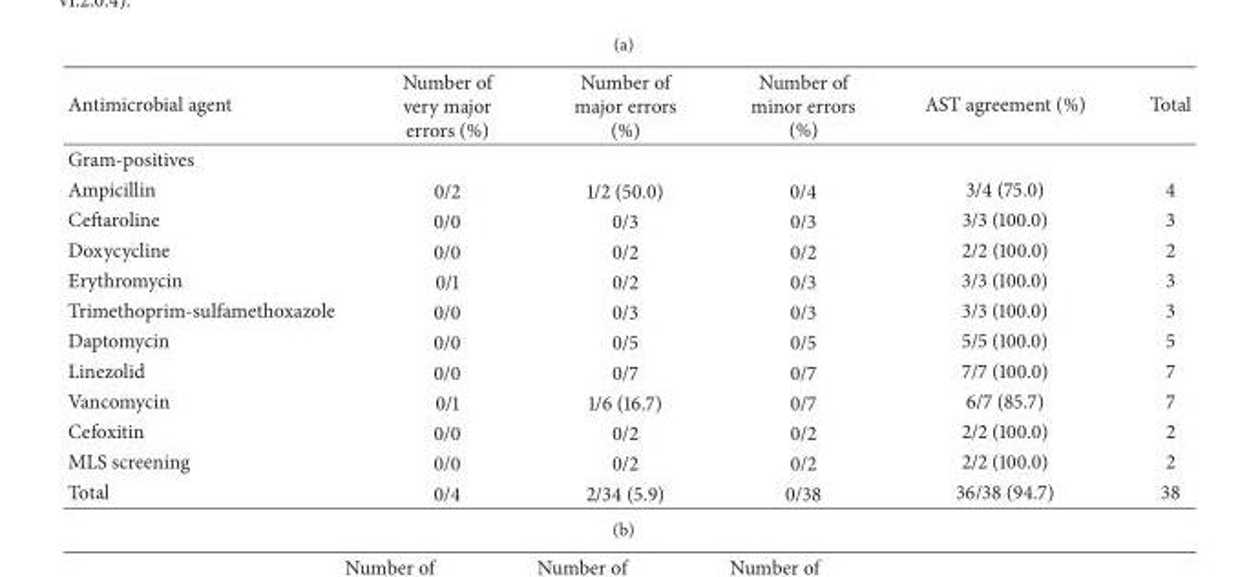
<table><thead><tr><td>Antimicrobial agent</td><td>Number of very major errors (%)</td><td>Number of major errors (%)</td><td>Number of minor errors (%)</td><td>AST agreement (%)</td><td>Total</td></tr></thead><tbody><tr><td colspan="6">Gram-positives</td></tr><tr><td>Ampicillin</td><td>0/2</td><td>1/2 (50.0)</td><td>0/4</td><td>3/4 (75.0)</td><td>4</td></tr><tr><td>Ceftaroline</td><td>0/0</td><td>0/3</td><td>0/3</td><td>3/3 (100.0)</td><td>3</td></tr><tr><td>Doxycycline</td><td>0/0</td><td>0/2</td><td>0/2</td><td>2/2 (100.0)</td><td>2</td></tr><tr><td>Erythromycin</td><td>0/1</td><td>0/2</td><td>0/3</td><td>3/3 (100.0)</td><td>3</td></tr><tr><td>Trimethoprim-sulfamethoxazole</td><td>0/0</td><td>0/3</td><td>0/3</td><td>3/3 (100.0)</td><td>3</td></tr><tr><td>Daptomycin</td><td>0/0</td><td>0/5</td><td>0/5</td><td>5/5 (100.0)</td><td>5</td></tr><tr><td>Linezolid</td><td>0/0</td><td>0/7</td><td>0/7</td><td>7/7 (100.0)</td><td>7</td></tr><tr><td>Vancomycin</td><td>0/1</td><td>1/6 (16.7)</td><td>0/7</td><td>6/7 (85.7)</td><td>7</td></tr><tr><td>Cefoxitin</td><td>0/0</td><td>0/2</td><td>0/2</td><td>2/2 (100.0)</td><td>2</td></tr><tr><td>MLS screening</td><td>0/0</td><td>0/2</td><td>0/2</td><td>2/2 (100.0)</td><td>2</td></tr><tr><td>Total</td><td>0/4</td><td>2/34 (5.9)</td><td>0/38</td><td>36/38 (94.7)</td><td>38</td></tr></tbody></table>